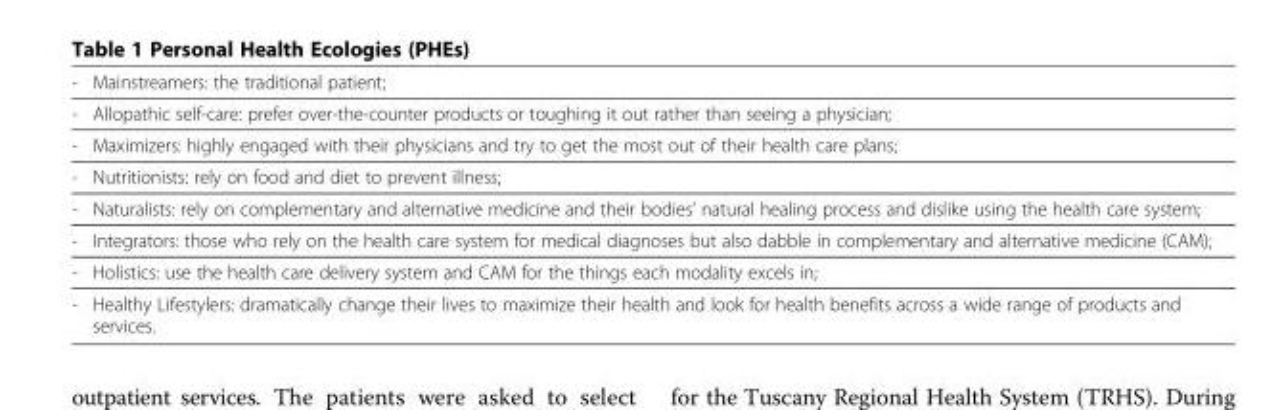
<table><tbody><tr><td>-</td><td>Mainstreamers: the traditional patient;</td></tr><tr><td>-</td><td>Allopathic self-care: prefer over-the-counter products or toughing it out rather than seeing a physician;</td></tr><tr><td>-</td><td>Maximizers: highly engaged with their physicians and try to get the most out of their health care plans;</td></tr><tr><td>-</td><td>Nutritionists: rely on food and diet to prevent illness;</td></tr><tr><td>-</td><td>Naturalists: rely on complementary and alternative medicine and their bodies’ natural healing process and dislike using the health care system;</td></tr><tr><td>-</td><td>Integrators: those who rely on the health care system for medical diagnoses but also dabble in complementary and alternative medicine (CAM);</td></tr><tr><td>-</td><td>Holistics: use the health care delivery system and CAM for the things each modality excels in;</td></tr><tr><td>-</td><td>Healthy Lifestylers: dramatically change their lives to maximize their health and look for health benefits across a wide range of products and services.</td></tr></tbody></table>